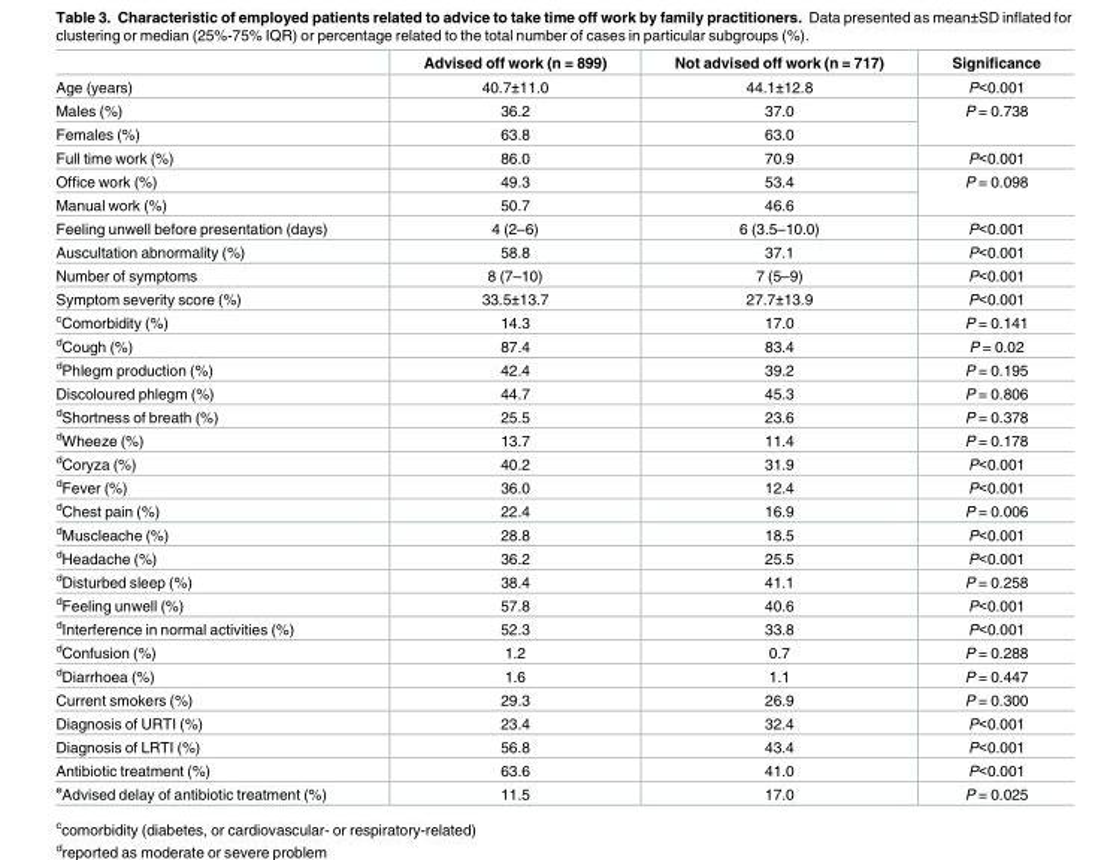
<table><thead><tr><td></td><td>Advised off work (n = 899)</td><td>Not advised off work (n = 717)</td><td>Significance</td></tr></thead><tbody><tr><td>Age (years)</td><td>40.7±11.0</td><td>44.1±12.8</td><td>P&lt;0.001</td></tr><tr><td>Males (%)</td><td>36.2</td><td>37.0</td><td rowspan="2">P = 0.738</td></tr><tr><td>Females (%)</td><td>63.8</td><td>63.0</td></tr><tr><td>Full time work (%)</td><td>86.0</td><td>70.9</td><td>P&lt;0.001</td></tr><tr><td>Office work (%)</td><td>49.3</td><td>53.4</td><td rowspan="2">P = 0.098</td></tr><tr><td>Manual work (%)</td><td>50.7</td><td>46.6</td></tr><tr><td>Feeling unwell before presentation (days)</td><td>4 (2–6)</td><td>6 (3.5–10.0)</td><td>P&lt;0.001</td></tr><tr><td>Auscultation abnormality (%)</td><td>58.8</td><td>37.1</td><td>P&lt;0.001</td></tr><tr><td>Number of symptoms</td><td>8 (7–10)</td><td>7 (5–9)</td><td>P&lt;0.001</td></tr><tr><td>Symptom severity score (%)</td><td>33.5±13.7</td><td>27.7±13.9</td><td>P&lt;0.001</td></tr><tr><td><sup>c</sup>Comorbidity (%)</td><td>14.3</td><td>17.0</td><td>P = 0.141</td></tr><tr><td><sup>d</sup>Cough (%)</td><td>87.4</td><td>83.4</td><td>P = 0.02</td></tr><tr><td><sup>d</sup>Phlegm production (%)</td><td>42.4</td><td>39.2</td><td>P = 0.195</td></tr><tr><td>Discoloured phlegm (%)</td><td>44.7</td><td>45.3</td><td>P = 0.806</td></tr><tr><td><sup>d</sup>Shortness of breath (%)</td><td>25.5</td><td>23.6</td><td>P = 0.378</td></tr><tr><td><sup>d</sup>Wheeze (%)</td><td>13.7</td><td>11.4</td><td>P = 0.178</td></tr><tr><td><sup>d</sup>Coryza (%)</td><td>40.2</td><td>31.9</td><td>P&lt;0.001</td></tr><tr><td><sup>d</sup>Fever (%)</td><td>36.0</td><td>12.4</td><td>P&lt;0.001</td></tr><tr><td><sup>d</sup>Chest pain (%)</td><td>22.4</td><td>16.9</td><td>P = 0.006</td></tr><tr><td><sup>d</sup>Muscleache (%)</td><td>28.8</td><td>18.5</td><td>P&lt;0.001</td></tr><tr><td><sup>d</sup>Headache (%)</td><td>36.2</td><td>25.5</td><td>P&lt;0.001</td></tr><tr><td><sup>d</sup>Disturbed sleep (%)</td><td>38.4</td><td>41.1</td><td>P = 0.258</td></tr><tr><td><sup>d</sup>Feeling unwell (%)</td><td>57.8</td><td>40.6</td><td>P&lt;0.001</td></tr><tr><td><sup>d</sup>Interference in normal activities (%)</td><td>52.3</td><td>33.8</td><td>P&lt;0.001</td></tr><tr><td><sup>d</sup>Confusion (%)</td><td>1.2</td><td>0.7</td><td>P = 0.288</td></tr><tr><td><sup>d</sup>Diarrhoea (%)</td><td>1.6</td><td>1.1</td><td>P = 0.447</td></tr><tr><td>Current smokers (%)</td><td>29.3</td><td>26.9</td><td>P = 0.300</td></tr><tr><td>Diagnosis of URTI (%)</td><td>23.4</td><td>32.4</td><td>P&lt;0.001</td></tr><tr><td>Diagnosis of LRTI (%)</td><td>56.8</td><td>43.4</td><td>P&lt;0.001</td></tr><tr><td>Antibiotic treatment (%)</td><td>63.6</td><td>41.0</td><td>P&lt;0.001</td></tr><tr><td><sup>e</sup>Advised delay of antibiotic treatment (%)</td><td>11.5</td><td>17.0</td><td>P = 0.025</td></tr></tbody></table>